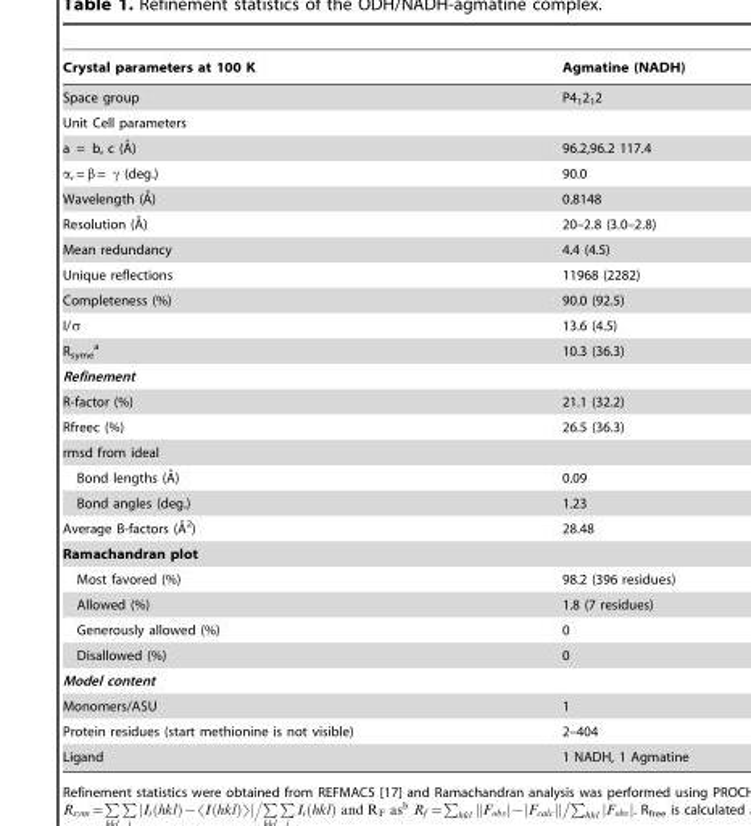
<table><thead><tr><td>Crystal parameters at 100 K</td><td>Agmatine (NADH)</td></tr></thead><tbody><tr><td>Space group</td><td>P4<sub>1</sub>2<sub>1</sub>2</td></tr><tr><td colspan="2">Unit Cell parameters</td></tr><tr><td>a = b, c (A˚)</td><td>96.2,96.2 117.4</td></tr><tr><td>α, = β = γ (deg.)</td><td>90.0</td></tr><tr><td>Wavelength (A˚)</td><td>0.8148</td></tr><tr><td>Resolution (A˚)</td><td>20–2.8 (3.0–2.8)</td></tr><tr><td>Mean redundancy</td><td>4.4 (4.5)</td></tr><tr><td>Unique reflections</td><td>11968 (2282)</td></tr><tr><td>Completeness (%)</td><td>90.0 (92.5)</td></tr><tr><td>I/σ</td><td>13.6 (4.5)</td></tr><tr><td>R<sub>syme</sub> <sup>a</sup></td><td>10.3 (36.3)</td></tr><tr><td colspan="2">Refinement</td></tr><tr><td>R-factor (%)</td><td>21.1 (32.2)</td></tr><tr><td>Rfreec (%)</td><td>26.5 (36.3)</td></tr><tr><td colspan="2">rmsd from ideal</td></tr><tr><td>Bond lengths (A˚)</td><td>0.09</td></tr><tr><td>Bond angles (deg.)</td><td>1.23</td></tr><tr><td>Average B-factors (A˚ 2)</td><td>28.48</td></tr><tr><td colspan="2">Ramachandran plot</td></tr><tr><td>Most favored (%)</td><td>98.2 (396 residues)</td></tr><tr><td>Allowed (%)</td><td>1.8 (7 residues)</td></tr><tr><td>Generously allowed (%)</td><td>0</td></tr><tr><td>Disallowed (%)</td><td>0</td></tr><tr><td colspan="2">Model content</td></tr><tr><td>Monomers/ASU</td><td>1</td></tr><tr><td>Protein residues (start methionine is not visible)</td><td>2–404</td></tr><tr><td>Ligand</td><td>1 NADH, 1 Agmatine</td></tr></tbody></table>